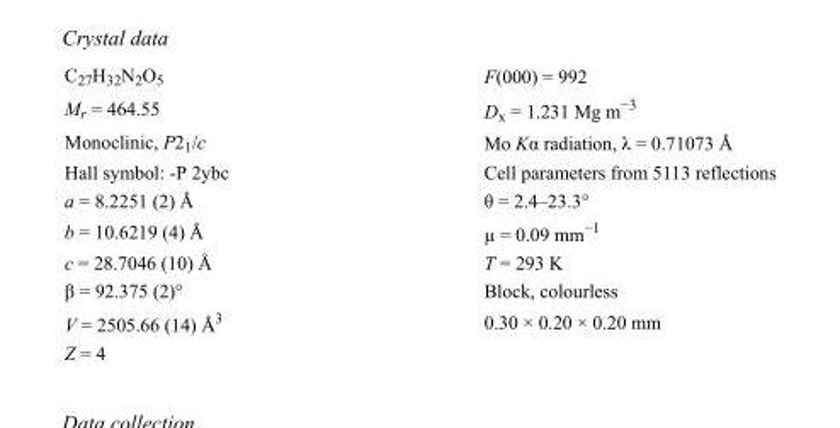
<table><tbody><tr><td>C<sub>27</sub>H<sub>32</sub>N<sub>2</sub>O<sub>5</sub></td><td>F(000) = 992</td></tr><tr><td>M<sub>r</sub> = 464.55</td><td>D<sub>x</sub> = 1.231 Mg m<sup>−3</sup></td></tr><tr><td>Monoclinic, P2<sub>1</sub>/c</td><td>Mo Kα radiation, λ = 0.71073 Å</td></tr><tr><td>Hall symbol: -P 2ybc</td><td>Cell parameters from 5113 reflections</td></tr><tr><td>a = 8.2251 (2) Å</td><td>θ = 2.4–23.3°</td></tr><tr><td>b = 10.6219 (4) Å</td><td>µ = 0.09 mm<sup>−1</sup></td></tr><tr><td>c = 28.7046 (10) Å</td><td>T = 293 K</td></tr><tr><td>β = 92.375 (2)°</td><td>Block, colourless</td></tr><tr><td>V = 2505.66 (14) Å<sup>3</sup></td><td>0.30 × 0.20 × 0.20 mm</td></tr><tr><td>Z = 4</td><td></td></tr></tbody></table>